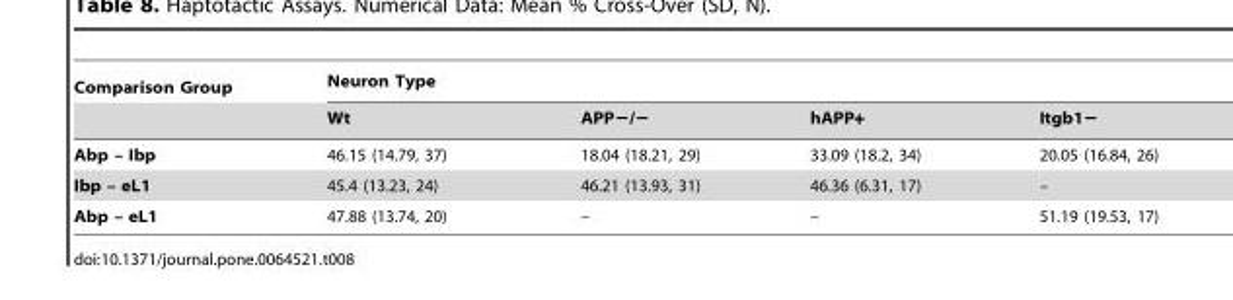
<table><thead><tr><td rowspan="2">Comparison Group</td><td colspan="4">Neuron Type</td></tr><tr><td>Wt</td><td>APP−/−</td><td>hAPP+</td><td>Itgb1−</td></tr></thead><tbody><tr><td>Abp – Ibp</td><td>46.15 (14.79, 37)</td><td>18.04 (18.21, 29)</td><td>33.09 (18.2, 34)</td><td>20.05 (16.84, 26)</td></tr><tr><td>Ibp – eL1</td><td>45.4 (13.23, 24)</td><td>46.21 (13.93, 31)</td><td>46.36 (6.31, 17)</td><td>–</td></tr><tr><td>Abp – eL1</td><td>47.88 (13.74, 20)</td><td>–</td><td>–</td><td>51.19 (19.53, 17)</td></tr></tbody></table>